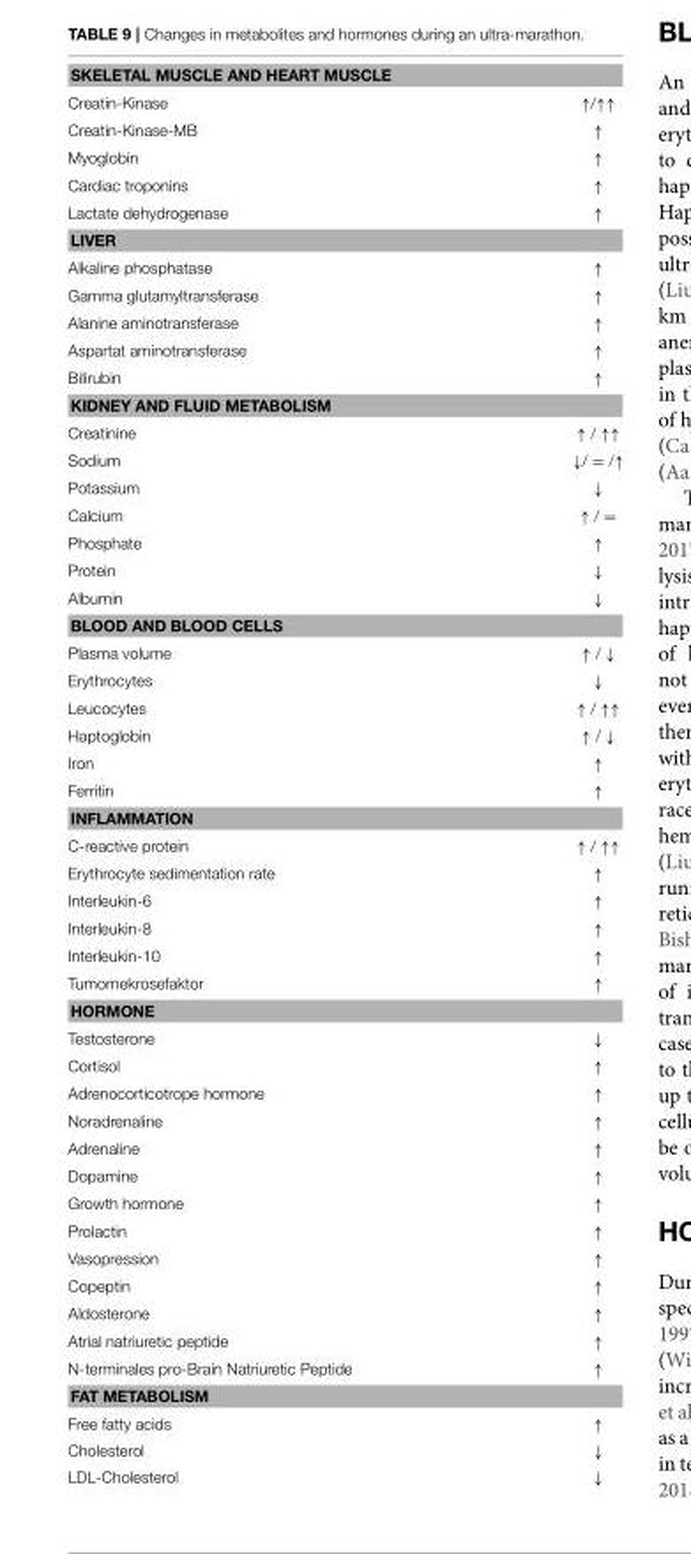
<table><tbody><tr><td colspan="2">SKELETAL MUSCLE AND HEART MUSCLE</td></tr><tr><td>Creatin-Kinase</td><td>↑/↑↑</td></tr><tr><td>Creatin-Kinase-MB</td><td>↑</td></tr><tr><td>Myoglobin</td><td>↑</td></tr><tr><td>Cardiac troponins</td><td>↑</td></tr><tr><td>Lactate dehydrogenase</td><td>↑</td></tr><tr><td colspan="2">LIVER</td></tr><tr><td>Alkaline phosphatase</td><td>↑</td></tr><tr><td>Gamma glutamyltransferase</td><td>↑</td></tr><tr><td>Alanine aminotransferase</td><td>↑</td></tr><tr><td>Aspartat aminotransferase</td><td>↑</td></tr><tr><td>Bilirubin</td><td>↑</td></tr><tr><td colspan="2">KIDNEY AND FLUID METABOLISM</td></tr><tr><td>Creatinine</td><td>↑ / ↑↑</td></tr><tr><td>Sodium</td><td>↓/ = /↑</td></tr><tr><td>Potassium</td><td>↓</td></tr><tr><td>Calcium</td><td>↑ / =</td></tr><tr><td>Phosphate</td><td>↑</td></tr><tr><td>Protein</td><td>↓</td></tr><tr><td>Albumin</td><td>↓</td></tr><tr><td colspan="2">BLOOD AND BLOOD CELLS</td></tr><tr><td>Plasma volume</td><td>↑ / ↓</td></tr><tr><td>Erythrocytes</td><td>↓</td></tr><tr><td>Leucocytes</td><td>↑ / ↑↑</td></tr><tr><td>Haptoglobin</td><td>↑ / ↓</td></tr><tr><td>Iron</td><td>↑</td></tr><tr><td>Ferritin</td><td>↑</td></tr><tr><td colspan="2">INFLAMMATION</td></tr><tr><td>C-reactive protein</td><td>↑ / ↑↑</td></tr><tr><td>Erythrocyte sedimentation rate</td><td>↑</td></tr><tr><td>Interleukin-6</td><td>↑</td></tr><tr><td>Interleukin-8</td><td>↑</td></tr><tr><td>Interleukin-10</td><td>↑</td></tr><tr><td>Tumornekrosefaktor</td><td>↑</td></tr><tr><td colspan="2">HORMONE</td></tr><tr><td>Testosterone</td><td>↓</td></tr><tr><td>Cortisol</td><td>↑</td></tr><tr><td>Adrenocorticotrope hormone</td><td>↑</td></tr><tr><td>Noradrenaline</td><td>↑</td></tr><tr><td>Adrenaline</td><td>↑</td></tr><tr><td>Dopamine</td><td>↑</td></tr><tr><td>Growth hormone</td><td>↑</td></tr><tr><td>Prolactin</td><td>↑</td></tr><tr><td>Vasopression</td><td>↑</td></tr><tr><td>Copeptin</td><td>↑</td></tr><tr><td>Aldosterone</td><td>↑</td></tr><tr><td>Atrial natriuretic peptide</td><td>↑</td></tr><tr><td>N-terminales pro-Brain Natriuretic Peptide</td><td>↑</td></tr><tr><td colspan="2">FAT METABOLISM</td></tr><tr><td>Free fatty acids</td><td>↑</td></tr><tr><td>Cholesterol</td><td>↓</td></tr><tr><td>LDL-Cholesterol</td><td>↓</td></tr></tbody></table>